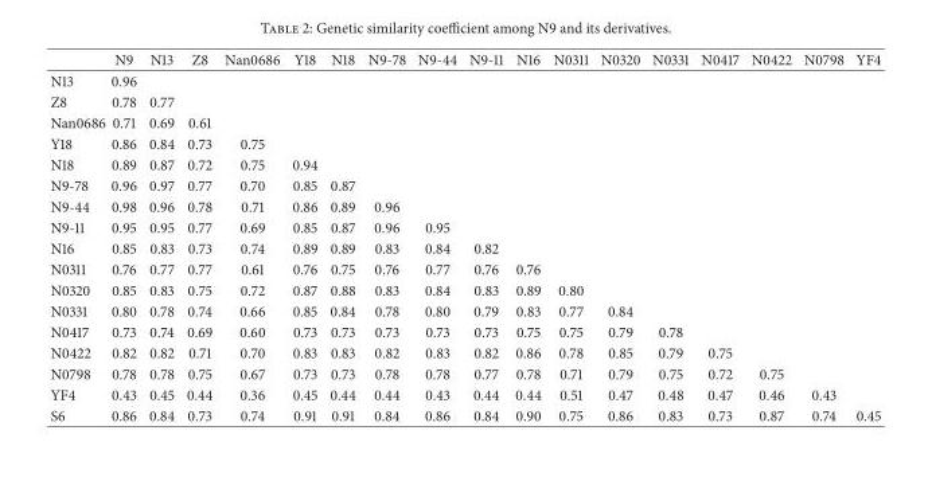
<table><thead><tr><td></td><td>N9</td><td>N13</td><td>Z8</td><td>Nan0686</td><td>Y18</td><td>N18</td><td>N9-78</td><td>N9-44</td><td>N9-11</td><td>N16</td><td>N0311</td><td>N0320</td><td>N0331</td><td>N0417</td><td>N0422</td><td>N0798</td><td>YF4</td></tr></thead><tbody><tr><td>N13</td><td>0.96</td><td></td><td></td><td></td><td></td><td></td><td></td><td></td><td></td><td></td><td></td><td></td><td></td><td></td><td></td><td></td><td></td></tr><tr><td>Z8</td><td>0.78</td><td>0.77</td><td></td><td></td><td></td><td></td><td></td><td></td><td></td><td></td><td></td><td></td><td></td><td></td><td></td><td></td><td></td></tr><tr><td>Nan0686</td><td>0.71</td><td>0.69</td><td>0.61</td><td></td><td></td><td></td><td></td><td></td><td></td><td></td><td></td><td></td><td></td><td></td><td></td><td></td><td></td></tr><tr><td>Y18</td><td>0.86</td><td>0.84</td><td>0.73</td><td>0.75</td><td></td><td></td><td></td><td></td><td></td><td></td><td></td><td></td><td></td><td></td><td></td><td></td><td></td></tr><tr><td>N18</td><td>0.89</td><td>0.87</td><td>0.72</td><td>0.75</td><td>0.94</td><td></td><td></td><td></td><td></td><td></td><td></td><td></td><td></td><td></td><td></td><td></td><td></td></tr><tr><td>N9-78</td><td>0.96</td><td>0.97</td><td>0.77</td><td>0.70</td><td>0.85</td><td>0.87</td><td></td><td></td><td></td><td></td><td></td><td></td><td></td><td></td><td></td><td></td><td></td></tr><tr><td>N9-44</td><td>0.98</td><td>0.96</td><td>0.78</td><td>0.71</td><td>0.86</td><td>0.89</td><td>0.96</td><td></td><td></td><td></td><td></td><td></td><td></td><td></td><td></td><td></td><td></td></tr><tr><td>N9-11</td><td>0.95</td><td>0.95</td><td>0.77</td><td>0.69</td><td>0.85</td><td>0.87</td><td>0.96</td><td>0.95</td><td></td><td></td><td></td><td></td><td></td><td></td><td></td><td></td><td></td></tr><tr><td>N16</td><td>0.85</td><td>0.83</td><td>0.73</td><td>0.74</td><td>0.89</td><td>0.89</td><td>0.83</td><td>0.84</td><td>0.82</td><td></td><td></td><td></td><td></td><td></td><td></td><td></td><td></td></tr><tr><td>N0311</td><td>0.76</td><td>0.77</td><td>0.77</td><td>0.61</td><td>0.76</td><td>0.75</td><td>0.76</td><td>0.77</td><td>0.76</td><td>0.76</td><td></td><td></td><td></td><td></td><td></td><td></td><td></td></tr><tr><td>N0320</td><td>0.85</td><td>0.83</td><td>0.75</td><td>0.72</td><td>0.87</td><td>0.88</td><td>0.83</td><td>0.84</td><td>0.83</td><td>0.89</td><td>0.80</td><td></td><td></td><td></td><td></td><td></td><td></td></tr><tr><td>N0331</td><td>0.80</td><td>0.78</td><td>0.74</td><td>0.66</td><td>0.85</td><td>0.84</td><td>0.78</td><td>0.80</td><td>0.79</td><td>0.83</td><td>0.77</td><td>0.84</td><td></td><td></td><td></td><td></td><td></td></tr><tr><td>N0417</td><td>0.73</td><td>0.74</td><td>0.69</td><td>0.60</td><td>0.73</td><td>0.73</td><td>0.73</td><td>0.73</td><td>0.73</td><td>0.75</td><td>0.75</td><td>0.79</td><td>0.78</td><td></td><td></td><td></td><td></td></tr><tr><td>N0422</td><td>0.82</td><td>0.82</td><td>0.71</td><td>0.70</td><td>0.83</td><td>0.83</td><td>0.82</td><td>0.83</td><td>0.82</td><td>0.86</td><td>0.78</td><td>0.85</td><td>0.79</td><td>0.75</td><td></td><td></td><td></td></tr><tr><td>N0798</td><td>0.78</td><td>0.78</td><td>0.75</td><td>0.67</td><td>0.73</td><td>0.73</td><td>0.78</td><td>0.78</td><td>0.77</td><td>0.78</td><td>0.71</td><td>0.79</td><td>0.75</td><td>0.72</td><td>0.75</td><td></td><td></td></tr><tr><td>YF4</td><td>0.43</td><td>0.45</td><td>0.44</td><td>0.36</td><td>0.45</td><td>0.44</td><td>0.44</td><td>0.43</td><td>0.44</td><td>0.44</td><td>0.51</td><td>0.47</td><td>0.48</td><td>0.47</td><td>0.46</td><td>0.43</td><td></td></tr><tr><td>S6</td><td>0.86</td><td>0.84</td><td>0.73</td><td>0.74</td><td>0.91</td><td>0.91</td><td>0.84</td><td>0.86</td><td>0.84</td><td>0.90</td><td>0.75</td><td>0.86</td><td>0.83</td><td>0.73</td><td>0.87</td><td>0.74</td><td>0.45</td></tr></tbody></table>